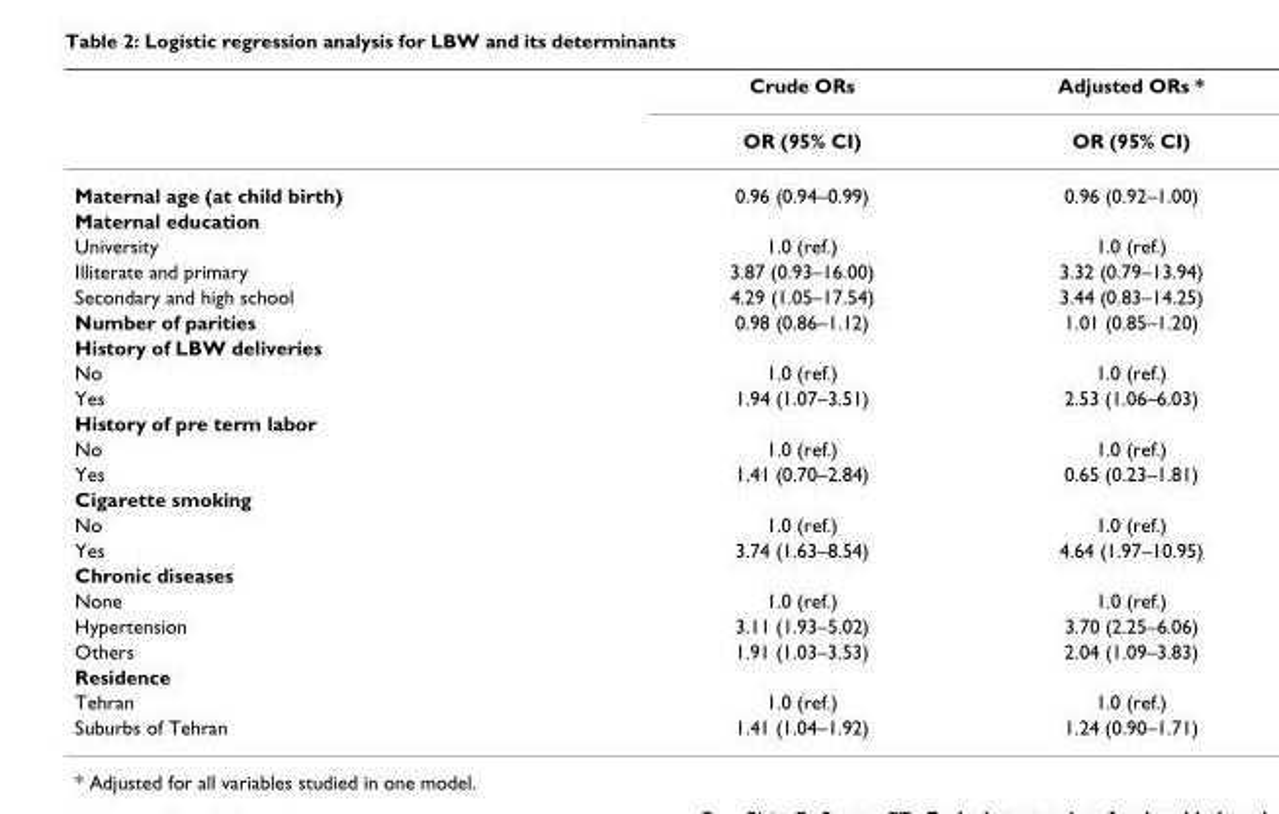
<table><thead><tr><td rowspan="2"></td><td rowspan="2">Crude ORs OR (95% CI)</td><td rowspan="2">Adjusted ORs * OR (95% CI)</td></tr><tr></tr></thead><tbody><tr><td>Maternal age (at child birth)</td><td>0.96 (0.94–0.99)</td><td>0.96 (0.92–1.00)</td></tr><tr><td colspan="3">Maternal education</td></tr><tr><td>University</td><td>1.0 (ref.)</td><td>1.0 (ref.)</td></tr><tr><td>Illiterate and primary</td><td>3.87 (0.93–16.00)</td><td>3.32 (0.79–13.94)</td></tr><tr><td>Secondary and high school</td><td>4.29 (1.05–17.54)</td><td>3.44 (0.83–14.25)</td></tr><tr><td>Number of parities</td><td>0.98 (0.86–1.12)</td><td>1.01 (0.85–1.20)</td></tr><tr><td colspan="3">History of LBW deliveries</td></tr><tr><td>No</td><td>1.0 (ref.)</td><td>1.0 (ref.)</td></tr><tr><td>Yes</td><td>1.94 (1.07–3.51)</td><td>2.53 (1.06–6.03)</td></tr><tr><td colspan="3">History of pre term labor</td></tr><tr><td>No</td><td>1.0 (ref.)</td><td>1.0 (ref.)</td></tr><tr><td>Yes</td><td>1.41 (0.70–2.84)</td><td>0.65 (0.23–1.81)</td></tr><tr><td colspan="3">Cigarette smoking</td></tr><tr><td>No</td><td>1.0 (ref.)</td><td>1.0 (ref.)</td></tr><tr><td>Yes</td><td>3.74 (1.63–8.54)</td><td>4.64 (1.97–10.95)</td></tr><tr><td colspan="3">Chronic diseases</td></tr><tr><td>None</td><td>1.0 (ref.)</td><td>1.0 (ref.)</td></tr><tr><td>Hypertension</td><td>3.11 (1.93–5.02)</td><td>3.70 (2.25–6.06)</td></tr><tr><td>Others</td><td>1.91 (1.03–3.53)</td><td>2.04 (1.09–3.83)</td></tr><tr><td colspan="3">Residence</td></tr><tr><td>Tehran</td><td>1.0 (ref.)</td><td>1.0 (ref.)</td></tr><tr><td>Suburbs of Tehran</td><td>1.41 (1.04–1.92)</td><td>1.24 (0.90–1.71)</td></tr></tbody></table>